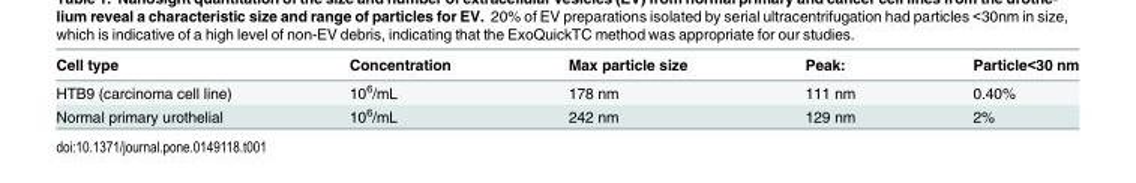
<table><thead><tr><td>Cell type</td><td>Concentration</td><td>Max particle size</td><td>Peak:</td><td>Particle&lt;30 nm</td></tr></thead><tbody><tr><td>HTB9 (carcinoma cell line)</td><td>10<sup>6</sup>/mL</td><td>178 nm</td><td>111 nm</td><td>0.40%</td></tr><tr><td>Normal primary urothelial</td><td>10<sup>6</sup>/mL</td><td>242 nm</td><td>129 nm</td><td>2%</td></tr></tbody></table>